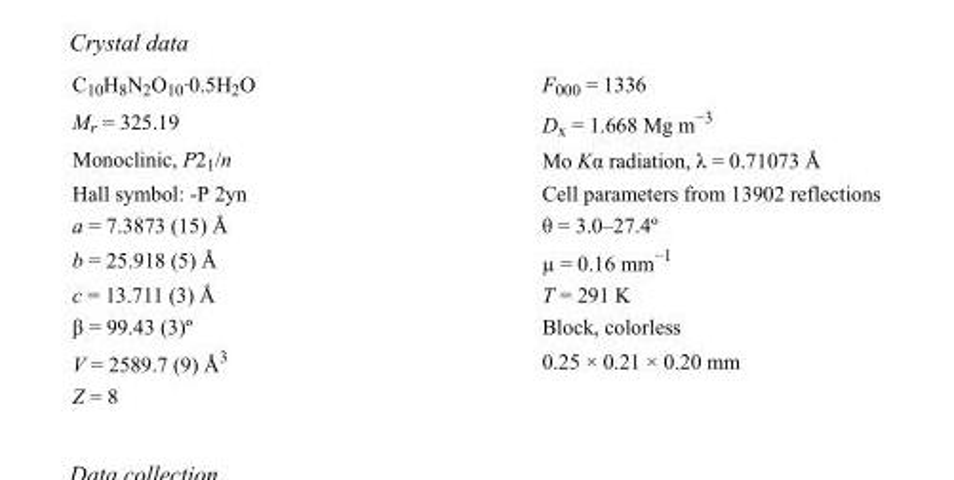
<table><tbody><tr><td>C<sub>10</sub>H<sub>8</sub>N<sub>2</sub>O<sub>10</sub>·0.5H<sub>2</sub>O</td><td>F000 = 1336</td></tr><tr><td>M<sub>r</sub> = 325.19</td><td>D<sub>x</sub> = 1.668 Mg m<sup>−3</sup></td></tr><tr><td>Monoclinic, P2<sub>1</sub>/n</td><td>Mo Kα radiation, λ = 0.71073 Å</td></tr><tr><td>Hall symbol: -P 2yn</td><td>Cell parameters from 13902 reflections</td></tr><tr><td>a = 7.3873 (15) Å</td><td>θ = 3.0–27.4º</td></tr><tr><td>b = 25.918 (5) Å</td><td>µ = 0.16 mm<sup>−1</sup></td></tr><tr><td>c = 13.711 (3) Å</td><td>T = 291 K</td></tr><tr><td>β = 99.43 (3)º</td><td>Block, colorless</td></tr><tr><td>V = 2589.7 (9) Å<sup>3</sup></td><td>0.25 × 0.21 × 0.20 mm</td></tr><tr><td>Z = 8</td><td></td></tr></tbody></table>